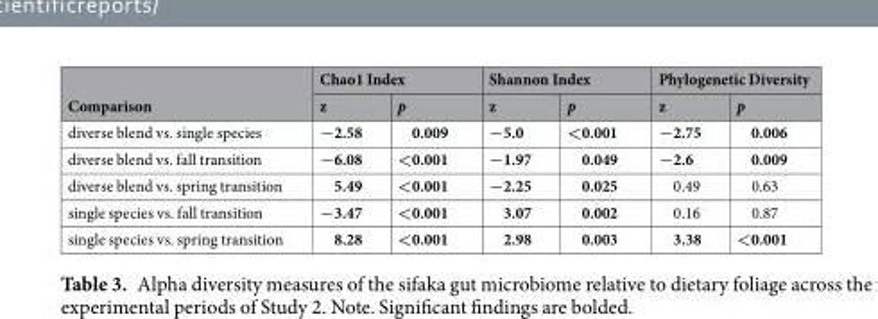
<table><thead><tr><td rowspan="2">Comparison</td><td colspan="2">Chao1 Index</td><td colspan="2">Shannon Index</td><td colspan="2">Phylogenetic Diversity</td></tr><tr><td>z</td><td>p</td><td>z</td><td>p</td><td>z</td><td>p</td></tr></thead><tbody><tr><td>diverse blend vs. single species</td><td>−2.58</td><td>0.009</td><td>−5.0</td><td>&lt;0.001</td><td>−2.75</td><td>0.006</td></tr><tr><td>diverse blend vs. fall transition</td><td>−6.08</td><td>&lt;0.001</td><td>−1.97</td><td>0.049</td><td>−2.6</td><td>0.009</td></tr><tr><td>diverse blend vs. spring transition</td><td>5.49</td><td>&lt;0.001</td><td>−2.25</td><td>0.025</td><td>0.49</td><td>0.63</td></tr><tr><td>single species vs. fall transition</td><td>−3.47</td><td>&lt;0.001</td><td>3.07</td><td>0.002</td><td>0.16</td><td>0.87</td></tr><tr><td>single species vs. spring transition</td><td>8.28</td><td>&lt;0.001</td><td>2.98</td><td>0.003</td><td>3.38</td><td>&lt;0.001</td></tr></tbody></table>